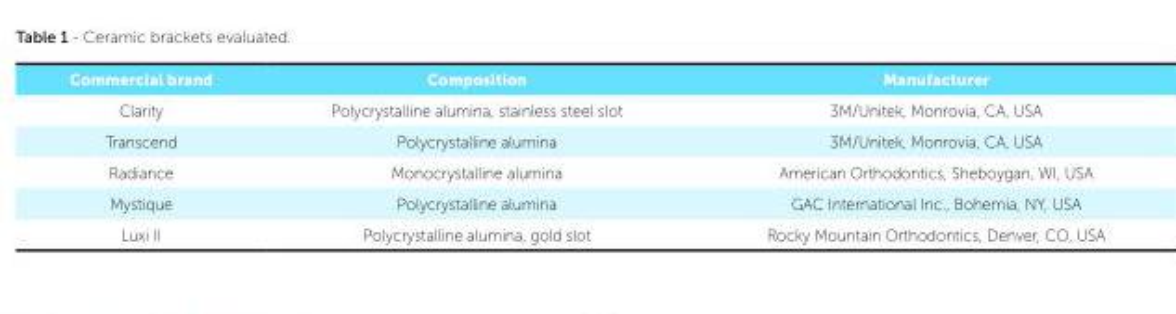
<table><thead><tr><td>Commercial brand</td><td>Composition</td><td>Manufacturer</td></tr></thead><tbody><tr><td>Clarity</td><td>Polycrystalline alumina, stainless steel slot</td><td>3M/Unitek, Monrovia, CA, USA</td></tr><tr><td>Transcend</td><td>Polycrystalline alumina</td><td>3M/Unitek, Monrovia, CA, USA</td></tr><tr><td>Radiance</td><td>Monocrystalline alumina</td><td>American Orthodontics, Sheboygan, WI, USA</td></tr><tr><td>Mystique</td><td>Polycrystalline alumina</td><td>GAC International Inc., Bohemia, NY, USA</td></tr><tr><td>Luxi II</td><td>Polycrystalline alumina, gold slot</td><td>Rocky Mountain Orthodontics, Denver, CO, USA</td></tr></tbody></table>